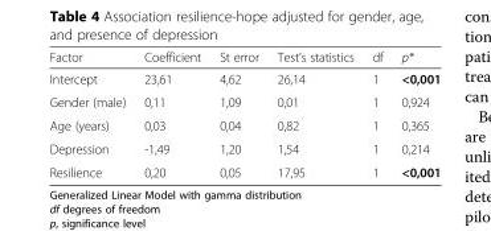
<table><thead><tr><td>Factor</td><td>Coefficient</td><td>St error</td><td>Test’s statistics</td><td>df</td><td>p*</td></tr></thead><tbody><tr><td>Intercept</td><td>23,61</td><td>4,62</td><td>26,14</td><td>1</td><td>&lt;0,001</td></tr><tr><td>Gender (male)</td><td>0,11</td><td>1,09</td><td>0,01</td><td>1</td><td>0,924</td></tr><tr><td>Age (years)</td><td>0,03</td><td>0,04</td><td>0,82</td><td>1</td><td>0,365</td></tr><tr><td>Depression</td><td>-1,49</td><td>1,20</td><td>1,54</td><td>1</td><td>0,214</td></tr><tr><td>Resilience</td><td>0,20</td><td>0,05</td><td>17,95</td><td>1</td><td>&lt;0,001</td></tr></tbody></table>